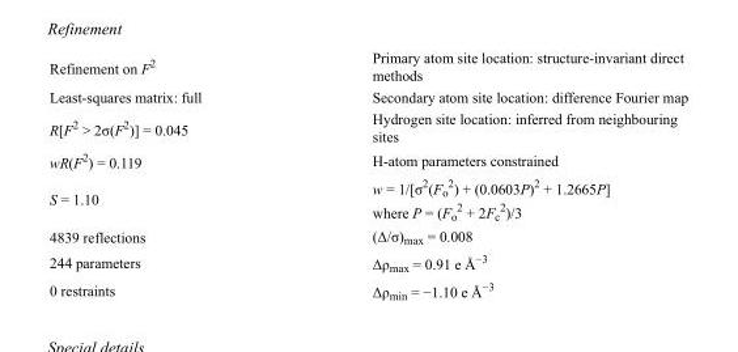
<table><tbody><tr><td>Refinement on F<sup>2</sup></td><td>Primary atom site location: structure-invariant direct methods</td></tr><tr><td>Least-squares matrix: full</td><td>Secondary atom site location: difference Fourier map</td></tr><tr><td>R[F<sup>2</sup> &gt; 2σ(F<sup>2</sup>)] = 0.045</td><td>Hydrogen site location: inferred from neighbouring sites</td></tr><tr><td>wR(F<sup>2</sup>) = 0.119</td><td>H-atom parameters constrained</td></tr><tr><td>S = 1.10</td><td>w = 1/[σ<sup>2</sup>(F<sub>o</sub> <sup>2</sup>) + (0.0603P)<sup>2</sup> + 1.2665P] where P = (F<sub>o</sub> <sup>2</sup> + 2F<sub>c</sub> <sup>2</sup>)/3</td></tr><tr><td>4839 reflections</td><td>(Δ/σ)<sub>max</sub> = 0.008</td></tr><tr><td>244 parameters</td><td>Δρ<sub>max</sub> = 0.91 e Å<sup>−3</sup></td></tr><tr><td>0 restraints</td><td>Δρ<sub>min</sub> = −1.10 e Å<sup>−3</sup></td></tr></tbody></table>